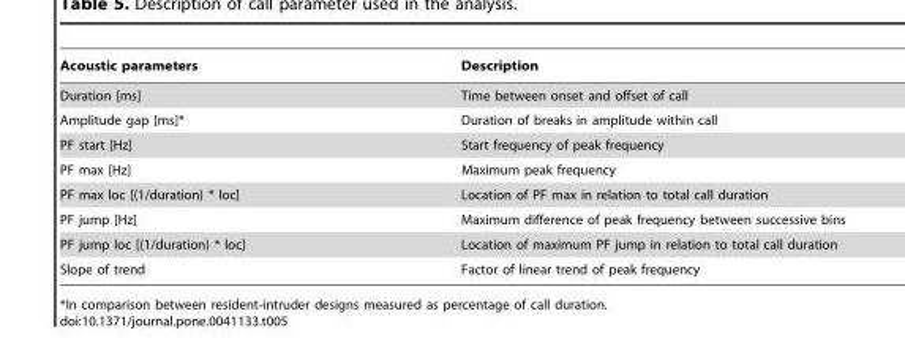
<table><thead><tr><td>Acoustic parameters</td><td>Description</td></tr></thead><tbody><tr><td>Duration [ms]</td><td>Time between onset and offset of call</td></tr><tr><td>Amplitude gap [ms]*</td><td>Duration of breaks in amplitude within call</td></tr><tr><td>PF start [Hz]</td><td>Start frequency of peak frequency</td></tr><tr><td>PF max [Hz]</td><td>Maximum peak frequency</td></tr><tr><td>PF max loc [(1/duration) * loc]</td><td>Location of PF max in relation to total call duration</td></tr><tr><td>PF jump [Hz]</td><td>Maximum difference of peak frequency between successive bins</td></tr><tr><td>PF jump loc [(1/duration) * loc]</td><td>Location of maximum PF jump in relation to total call duration</td></tr><tr><td>Slope of trend</td><td>Factor of linear trend of peak frequency</td></tr></tbody></table>